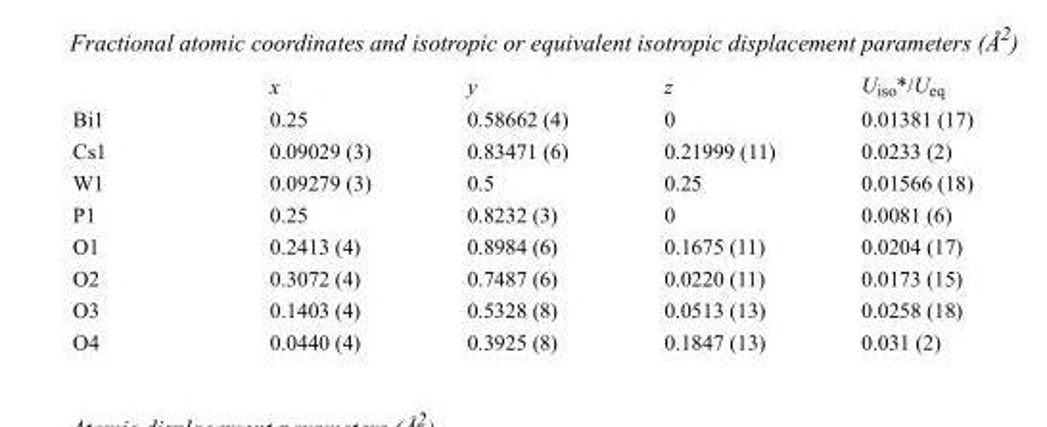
<table><thead><tr><td></td><td>x</td><td>y</td><td>z</td><td>U<sub>iso</sub>*/U<sub>eq</sub></td></tr></thead><tbody><tr><td>Bi1</td><td>0.25</td><td>0.58662 (4)</td><td>0</td><td>0.01381 (17)</td></tr><tr><td>Cs1</td><td>0.09029 (3)</td><td>0.83471 (6)</td><td>0.21999 (11)</td><td>0.0233 (2)</td></tr><tr><td>W1</td><td>0.09279 (3)</td><td>0.5</td><td>0.25</td><td>0.01566 (18)</td></tr><tr><td>P1</td><td>0.25</td><td>0.8232 (3)</td><td>0</td><td>0.0081 (6)</td></tr><tr><td>O1</td><td>0.2413 (4)</td><td>0.8984 (6)</td><td>0.1675 (11)</td><td>0.0204 (17)</td></tr><tr><td>O2</td><td>0.3072 (4)</td><td>0.7487 (6)</td><td>0.0220 (11)</td><td>0.0173 (15)</td></tr><tr><td>O3</td><td>0.1403 (4)</td><td>0.5328 (8)</td><td>0.0513 (13)</td><td>0.0258 (18)</td></tr><tr><td>O4</td><td>0.0440 (4)</td><td>0.3925 (8)</td><td>0.1847 (13)</td><td>0.031 (2)</td></tr></tbody></table>